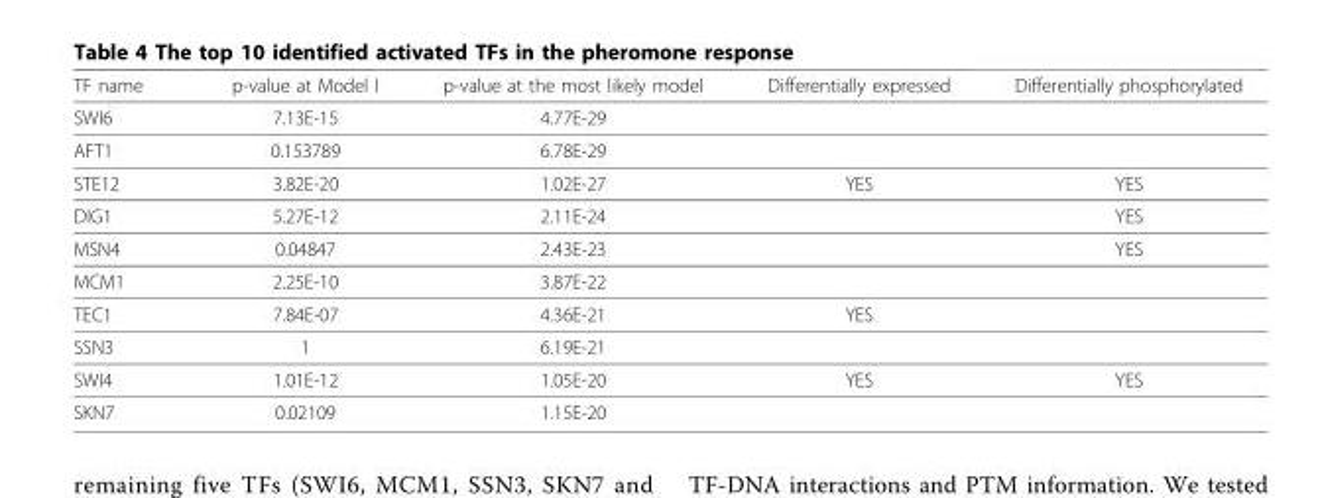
<table><thead><tr><td>TF name</td><td>p-value at Model I</td><td>p-value at the most likely model</td><td>Differentially expressed</td><td>Differentially phosphorylated</td></tr></thead><tbody><tr><td>SWI6</td><td>7.13E-15</td><td>4.77E-29</td><td></td><td></td></tr><tr><td>AFT1</td><td>0.153789</td><td>6.78E-29</td><td></td><td></td></tr><tr><td>STE12</td><td>3.82E-20</td><td>1.02E-27</td><td>YES</td><td>YES</td></tr><tr><td>DIG1</td><td>5.27E-12</td><td>2.11E-24</td><td></td><td>YES</td></tr><tr><td>MSN4</td><td>0.04847</td><td>2.43E-23</td><td></td><td>YES</td></tr><tr><td>MCM1</td><td>2.25E-10</td><td>3.87E-22</td><td></td><td></td></tr><tr><td>TEC1</td><td>7.84E-07</td><td>4.36E-21</td><td>YES</td><td></td></tr><tr><td>SSN3</td><td>1</td><td>6.19E-21</td><td></td><td></td></tr><tr><td>SWI4</td><td>1.01E-12</td><td>1.05E-20</td><td>YES</td><td>YES</td></tr><tr><td>SKN7</td><td>0.02109</td><td>1.15E-20</td><td></td><td></td></tr></tbody></table>